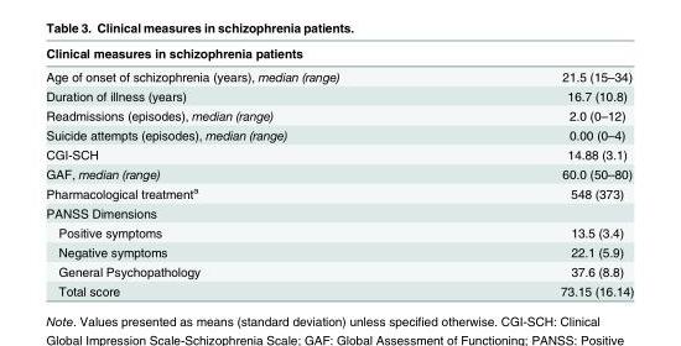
<table><thead><tr><td>Clinical measures in schizophrenia patients</td><td></td></tr></thead><tbody><tr><td>Age of onset of schizophrenia (years), median (range)</td><td>21.5 (15–34)</td></tr><tr><td>Duration of illness (years)</td><td>16.7 (10.8)</td></tr><tr><td>Readmissions (episodes), median (range)</td><td>2.0 (0–12)</td></tr><tr><td>Suicide attempts (episodes), median (range)</td><td>0.00 (0–4)</td></tr><tr><td>CGI-SCH</td><td>14.88 (3.1)</td></tr><tr><td>GAF, median (range)</td><td>60.0 (50–80)</td></tr><tr><td>Pharmacological treatment<sup>a</sup></td><td>548 (373)</td></tr><tr><td colspan="2">PANSS Dimensions</td></tr><tr><td>Positive symptoms</td><td>13.5 (3.4)</td></tr><tr><td>Negative symptoms</td><td>22.1 (5.9)</td></tr><tr><td>General Psychopathology</td><td>37.6 (8.8)</td></tr><tr><td>Total score</td><td>73.15 (16.14)</td></tr></tbody></table>